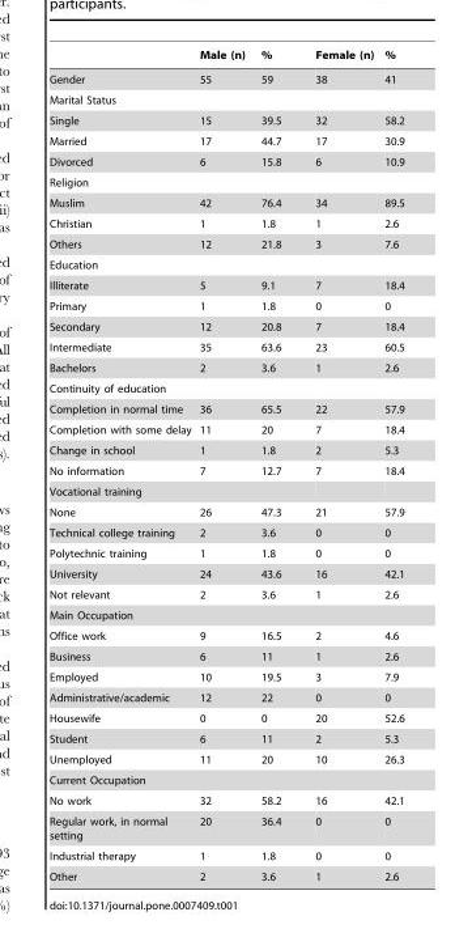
<table><thead><tr><td></td><td>Male (n)</td><td>%</td><td>Female (n)</td><td>%</td></tr></thead><tbody><tr><td>Gender</td><td>55</td><td>59</td><td>38</td><td>41</td></tr><tr><td colspan="5">Marital Status</td></tr><tr><td>Single</td><td>15</td><td>39.5</td><td>32</td><td>58.2</td></tr><tr><td>Married</td><td>17</td><td>44.7</td><td>17</td><td>30.9</td></tr><tr><td>Divorced</td><td>6</td><td>15.8</td><td>6</td><td>10.9</td></tr><tr><td colspan="5">Religion</td></tr><tr><td>Muslim</td><td>42</td><td>76.4</td><td>34</td><td>89.5</td></tr><tr><td>Christian</td><td>1</td><td>1.8</td><td>1</td><td>2.6</td></tr><tr><td>Others</td><td>12</td><td>21.8</td><td>3</td><td>7.6</td></tr><tr><td colspan="5">Education</td></tr><tr><td>Illiterate</td><td>5</td><td>9.1</td><td>7</td><td>18.4</td></tr><tr><td>Primary</td><td>1</td><td>1.8</td><td>0</td><td>0</td></tr><tr><td>Secondary</td><td>12</td><td>20.8</td><td>7</td><td>18.4</td></tr><tr><td>Intermediate</td><td>35</td><td>63.6</td><td>23</td><td>60.5</td></tr><tr><td>Bachelors</td><td>2</td><td>3.6</td><td>1</td><td>2.6</td></tr><tr><td colspan="5">Continuity of education</td></tr><tr><td>Completion in normal time</td><td>36</td><td>65.5</td><td>22</td><td>57.9</td></tr><tr><td>Completion with some delay</td><td>11</td><td>20</td><td>7</td><td>18.4</td></tr><tr><td>Change in school</td><td>1</td><td>1.8</td><td>2</td><td>5.3</td></tr><tr><td>No information</td><td>7</td><td>12.7</td><td>7</td><td>18.4</td></tr><tr><td colspan="5">Vocational training</td></tr><tr><td>None</td><td>26</td><td>47.3</td><td>21</td><td>57.9</td></tr><tr><td>Technical college training</td><td>2</td><td>3.6</td><td>0</td><td>0</td></tr><tr><td>Polytechnic training</td><td>1</td><td>1.8</td><td>0</td><td>0</td></tr><tr><td>University</td><td>24</td><td>43.6</td><td>16</td><td>42.1</td></tr><tr><td>Not relevant</td><td>2</td><td>3.6</td><td>1</td><td>2.6</td></tr><tr><td colspan="5">Main Occupation</td></tr><tr><td>Office work</td><td>9</td><td>16.5</td><td>2</td><td>4.6</td></tr><tr><td>Business</td><td>6</td><td>11</td><td>1</td><td>2.6</td></tr><tr><td>Employed</td><td>10</td><td>19.5</td><td>3</td><td>7.9</td></tr><tr><td>Administrative/academic</td><td>12</td><td>22</td><td>0</td><td>0</td></tr><tr><td>Housewife</td><td>0</td><td>0</td><td>20</td><td>52.6</td></tr><tr><td>Student</td><td>6</td><td>11</td><td>2</td><td>5.3</td></tr><tr><td>Unemployed</td><td>11</td><td>20</td><td>10</td><td>26.3</td></tr><tr><td colspan="5">Current Occupation</td></tr><tr><td>No work</td><td>32</td><td>58.2</td><td>16</td><td>42.1</td></tr><tr><td>Regular work, in normal setting</td><td>20</td><td>36.4</td><td>0</td><td>0</td></tr><tr><td>Industrial therapy</td><td>1</td><td>1.8</td><td>0</td><td>0</td></tr><tr><td>Other</td><td>2</td><td>3.6</td><td>1</td><td>2.6</td></tr></tbody></table>